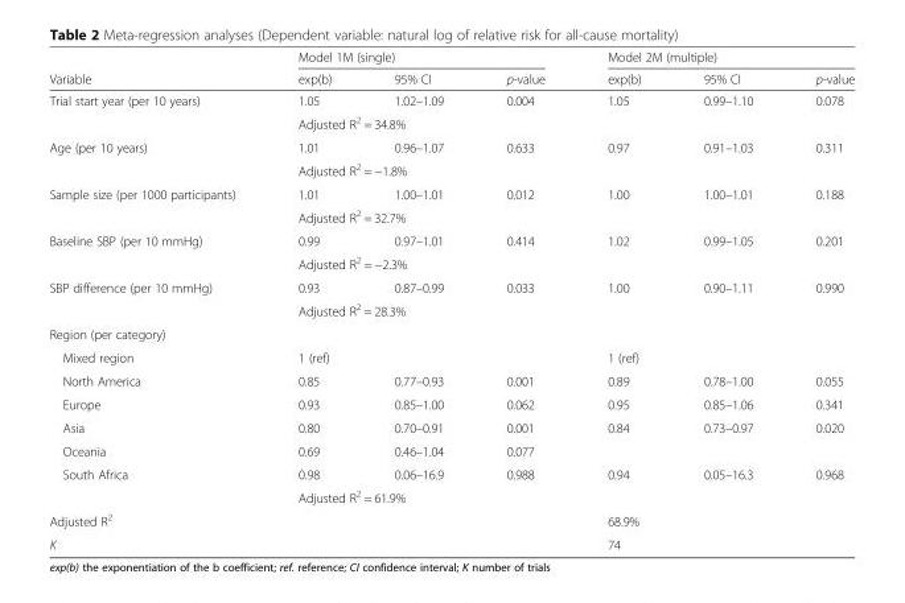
<table><thead><tr><td rowspan="2">Variable</td><td colspan="3">Model 1M (single)</td><td colspan="3">Model 2M (multiple)</td></tr><tr><td>exp(b)</td><td>95% CI</td><td>p-value</td><td>exp(b)</td><td>95% CI</td><td>p-value</td></tr></thead><tbody><tr><td rowspan="2">Trial start year (per 10 years)</td><td>1.05</td><td>1.02–1.09</td><td>0.004</td><td>1.05</td><td>0.99–1.10</td><td>0.078</td></tr><tr><td colspan="3">Adjusted R<sup>2</sup> = 34.8%</td><td></td><td></td><td></td></tr><tr><td rowspan="2">Age (per 10 years)</td><td>1.01</td><td>0.96–1.07</td><td>0.633</td><td>0.97</td><td>0.91–1.03</td><td>0.311</td></tr><tr><td colspan="3">Adjusted R<sup>2</sup> = −1.8%</td><td></td><td></td><td></td></tr><tr><td rowspan="2">Sample size (per 1000 participants)</td><td>1.01</td><td>1.00–1.01</td><td>0.012</td><td>1.00</td><td>1.00–1.01</td><td>0.188</td></tr><tr><td colspan="3">Adjusted R<sup>2</sup> = 32.7%</td><td></td><td></td><td></td></tr><tr><td rowspan="2">Baseline SBP (per 10 mmHg)</td><td>0.99</td><td>0.97–1.01</td><td>0.414</td><td>1.02</td><td>0.99–1.05</td><td>0.201</td></tr><tr><td colspan="3">Adjusted R<sup>2</sup> = −2.3%</td><td></td><td></td><td></td></tr><tr><td rowspan="2">SBP difference (per 10 mmHg)</td><td>0.93</td><td>0.87–0.99</td><td>0.033</td><td>1.00</td><td>0.90–1.11</td><td>0.990</td></tr><tr><td colspan="3">Adjusted R<sup>2</sup> = 28.3%</td><td></td><td></td><td></td></tr><tr><td colspan="7">Region (per category)</td></tr><tr><td>Mixed region</td><td>1 (ref)</td><td></td><td></td><td>1 (ref)</td><td></td><td></td></tr><tr><td>North America</td><td>0.85</td><td>0.77–0.93</td><td>0.001</td><td>0.89</td><td>0.78–1.00</td><td>0.055</td></tr><tr><td>Europe</td><td>0.93</td><td>0.85–1.00</td><td>0.062</td><td>0.95</td><td>0.85–1.06</td><td>0.341</td></tr><tr><td>Asia</td><td>0.80</td><td>0.70–0.91</td><td>0.001</td><td>0.84</td><td>0.73–0.97</td><td>0.020</td></tr><tr><td>Oceania</td><td>0.69</td><td>0.46–1.04</td><td>0.077</td><td></td><td></td><td></td></tr><tr><td rowspan="2">South Africa</td><td>0.98</td><td>0.06–16.9</td><td>0.988</td><td>0.94</td><td>0.05–16.3</td><td>0.968</td></tr><tr><td colspan="3">Adjusted R<sup>2</sup> = 61.9%</td><td></td><td></td><td></td></tr><tr><td>Adjusted R<sup>2</sup></td><td colspan="3"></td><td colspan="3">68.9%</td></tr><tr><td>K</td><td colspan="3"></td><td colspan="3">74</td></tr></tbody></table>